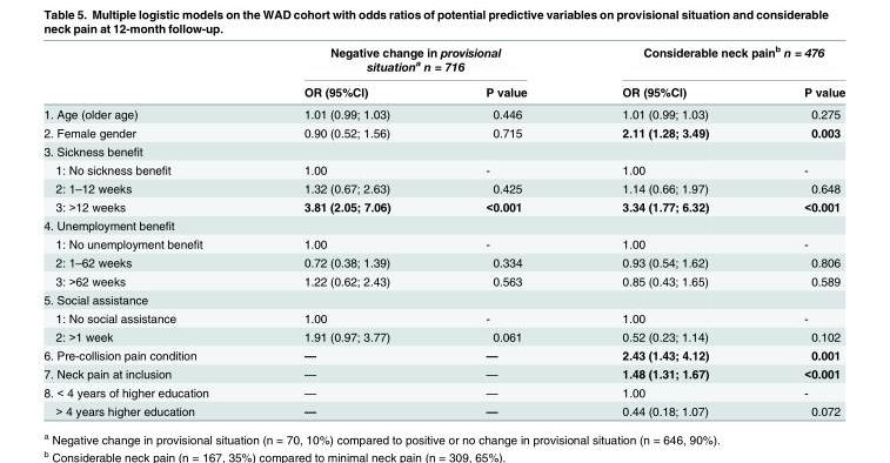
<table><thead><tr><td rowspan="2"></td><td colspan="2">Negative change in provisional situation<sup>a</sup> n = 716</td><td colspan="2">Considerable neck pain<sup>b</sup> n = 476</td></tr><tr><td>OR (95%CI)</td><td>P value</td><td>OR (95%CI)</td><td>P value</td></tr></thead><tbody><tr><td>1. Age (older age)</td><td>1.01 (0.99; 1.03)</td><td>0.446</td><td>1.01 (0.99; 1.03)</td><td>0.275</td></tr><tr><td>2. Female gender</td><td>0.90 (0.52; 1.56)</td><td>0.715</td><td>2.11 (1.28; 3.49)</td><td>0.003</td></tr><tr><td colspan="5">3. Sickness benefit</td></tr><tr><td>1: No sickness benefit</td><td>1.00</td><td>-</td><td>1.00</td><td>-</td></tr><tr><td>2: 1–12 weeks</td><td>1.32 (0.67; 2.63)</td><td>0.425</td><td>1.14 (0.66; 1.97)</td><td>0.648</td></tr><tr><td>3: &gt;12 weeks</td><td>3.81 (2.05; 7.06)</td><td>&lt;0.001</td><td>3.34 (1.77; 6.32)</td><td>&lt;0.001</td></tr><tr><td colspan="5">4. Unemployment benefit</td></tr><tr><td>1: No unemployment benefit</td><td>1.00</td><td>-</td><td>1.00</td><td>-</td></tr><tr><td>2: 1–62 weeks</td><td>0.72 (0.38; 1.39)</td><td>0.334</td><td>0.93 (0.54; 1.62)</td><td>0.806</td></tr><tr><td>3: &gt;62 weeks</td><td>1.22 (0.62; 2.43)</td><td>0.563</td><td>0.85 (0.43; 1.65)</td><td>0.589</td></tr><tr><td colspan="5">5. Social assistance</td></tr><tr><td>1: No social assistance</td><td>1.00</td><td>-</td><td>1.00</td><td>-</td></tr><tr><td>2: &gt;1 week</td><td>1.91 (0.97; 3.77)</td><td>0.061</td><td>0.52 (0.23; 1.14)</td><td>0.102</td></tr><tr><td>6. Pre-collision pain condition</td><td>—</td><td>—</td><td>2.43 (1.43; 4.12)</td><td>0.001</td></tr><tr><td>7. Neck pain at inclusion</td><td>—</td><td>—</td><td>1.48 (1.31; 1.67)</td><td>&lt;0.001</td></tr><tr><td>8. &lt; 4 years of higher education</td><td>—</td><td>—</td><td>1.00</td><td>-</td></tr><tr><td>&gt; 4 years higher education</td><td>—</td><td>—</td><td>0.44 (0.18; 1.07)</td><td>0.072</td></tr></tbody></table>